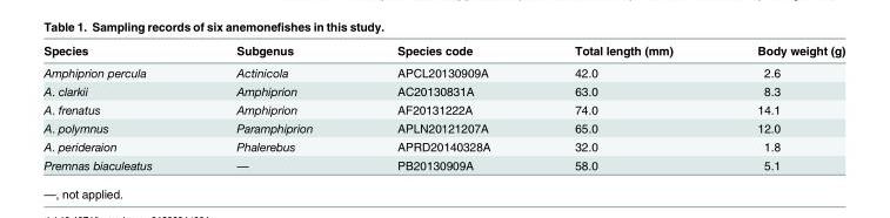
<table><thead><tr><td>Species</td><td>Subgenus</td><td>Species code</td><td>Total length (mm)</td><td>Body weight (g)</td></tr></thead><tbody><tr><td>Amphiprion percula</td><td>Actinicola</td><td>APCL20130909A</td><td>42.0</td><td>2.6</td></tr><tr><td>A. clarkii</td><td>Amphiprion</td><td>AC20130831A</td><td>63.0</td><td>8.3</td></tr><tr><td>A. frenatus</td><td>Amphiprion</td><td>AF20131222A</td><td>74.0</td><td>14.1</td></tr><tr><td>A. polymnus</td><td>Paramphiprion</td><td>APLN20121207A</td><td>65.0</td><td>12.0</td></tr><tr><td>A. perideraion</td><td>Phalerebus</td><td>APRD20140328A</td><td>32.0</td><td>1.8</td></tr><tr><td>Premnas biaculeatus</td><td>—</td><td>PB20130909A</td><td>58.0</td><td>5.1</td></tr></tbody></table>